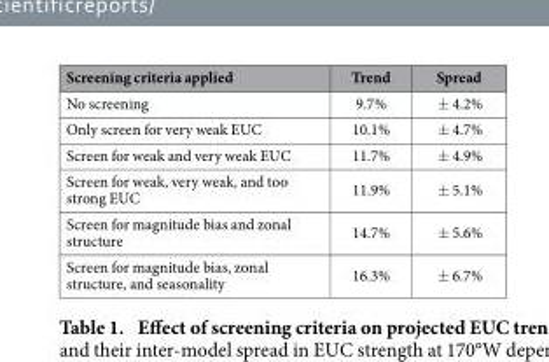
<table><thead><tr><td>Screening criteria applied</td><td>Trend</td><td>Spread</td></tr></thead><tbody><tr><td>No screening</td><td>9.7%</td><td>± 4.2%</td></tr><tr><td>Only screen for very weak EUC</td><td>10.1%</td><td>± 4.7%</td></tr><tr><td>Screen for weak and very weak EUC</td><td>11.7%</td><td>± 4.9%</td></tr><tr><td>Screen for weak, very weak, and too strong EUC</td><td>11.9%</td><td>± 5.1%</td></tr><tr><td>Screen for magnitude bias and zonal structure</td><td>14.7%</td><td>± 5.6%</td></tr><tr><td>Screen for magnitude bias, zonal structure, and seasonality</td><td>16.3%</td><td>± 6.7%</td></tr></tbody></table>